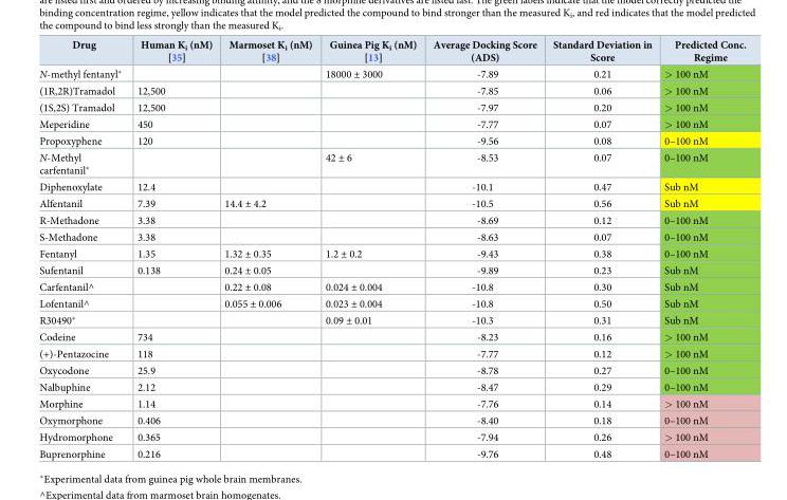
<table><thead><tr><td>Drug</td><td>Human K<sub>i</sub> (nM) [35]</td><td>Marmoset K<sub>i</sub> (nM) [38]</td><td>Guinea Pig K<sub>i</sub> (nM) [13]</td><td>Average Docking Score (ADS)</td><td>Standard Deviation in Score</td><td>Predicted Conc. Regime</td></tr></thead><tbody><tr><td>N-methyl fentanyl*</td><td></td><td></td><td>18000 ± 3000</td><td>-7.89</td><td>0.21</td><td>&gt; 100 nM</td></tr><tr><td>(1R,2R)Tramadol</td><td>12,500</td><td></td><td></td><td>-7.85</td><td>0.06</td><td>&gt; 100 nM</td></tr><tr><td>(1S,2S) Tramadol</td><td>12,500</td><td></td><td></td><td>-7.97</td><td>0.20</td><td>&gt; 100 nM</td></tr><tr><td>Meperidine</td><td>450</td><td></td><td></td><td>-7.77</td><td>0.07</td><td>&gt; 100 nM</td></tr><tr><td>Propoxyphene</td><td>120</td><td></td><td></td><td>-9.56</td><td>0.08</td><td>0–100 nM</td></tr><tr><td>N-Methyl carfentanil*</td><td></td><td></td><td>42 ± 6</td><td>-8.53</td><td>0.07</td><td>0–100 nM</td></tr><tr><td>Diphenoxylate</td><td>12.4</td><td></td><td></td><td>-10.1</td><td>0.47</td><td>Sub nM</td></tr><tr><td>Alfentanil</td><td>7.39</td><td>14.4 ± 4.2</td><td></td><td>-10.5</td><td>0.56</td><td>Sub nM</td></tr><tr><td>R-Methadone</td><td>3.38</td><td></td><td></td><td>-8.69</td><td>0.12</td><td>0–100 nM</td></tr><tr><td>S-Methadone</td><td>3.38</td><td></td><td></td><td>-8.63</td><td>0.07</td><td>0–100 nM</td></tr><tr><td>Fentanyl</td><td>1.35</td><td>1.32 ± 0.35</td><td>1.2 ± 0.2</td><td>-9.43</td><td>0.38</td><td>0–100 nM</td></tr><tr><td>Sufentanil</td><td>0.138</td><td>0.24 ± 0.05</td><td></td><td>-9.89</td><td>0.23</td><td>Sub nM</td></tr><tr><td>Carfentanil^</td><td></td><td>0.22 ± 0.08</td><td>0.024 ± 0.004</td><td>-10.8</td><td>0.30</td><td>Sub nM</td></tr><tr><td>Lofentanil^</td><td></td><td>0.055 ± 0.006</td><td>0.023 ± 0.004</td><td>-10.8</td><td>0.50</td><td>Sub nM</td></tr><tr><td>R30490*</td><td></td><td></td><td>0.09 ± 0.01</td><td>-10.3</td><td>0.31</td><td>Sub nM</td></tr><tr><td>Codeine</td><td>734</td><td></td><td></td><td>-8.23</td><td>0.16</td><td>&gt; 100 nM</td></tr><tr><td>(+)-Pentazocine</td><td>118</td><td></td><td></td><td>-7.77</td><td>0.12</td><td>&gt; 100 nM</td></tr><tr><td>Oxycodone</td><td>25.9</td><td></td><td></td><td>-8.78</td><td>0.27</td><td>0–100 nM</td></tr><tr><td>Nalbuphine</td><td>2.12</td><td></td><td></td><td>-8.47</td><td>0.29</td><td>0–100 nM</td></tr><tr><td>Morphine</td><td>1.14</td><td></td><td></td><td>-7.76</td><td>0.14</td><td>&gt; 100 nM</td></tr><tr><td>Oxymorphone</td><td>0.406</td><td></td><td></td><td>-8.40</td><td>0.18</td><td>0–100 nM</td></tr><tr><td>Hydromorphone</td><td>0.365</td><td></td><td></td><td>-7.94</td><td>0.26</td><td>&gt; 100 nM</td></tr><tr><td>Buprenorphine</td><td>0.216</td><td></td><td></td><td>-9.76</td><td>0.48</td><td>0–100 nM</td></tr></tbody></table>